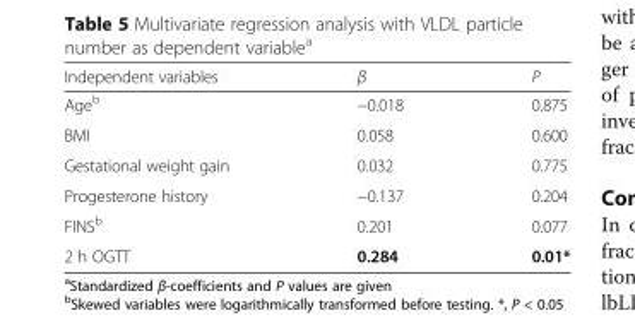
<table><thead><tr><td>Independent variables</td><td>β</td><td>P</td></tr></thead><tbody><tr><td>Age<sup>b</sup></td><td>−0.018</td><td>0.875</td></tr><tr><td>BMI</td><td>0.058</td><td>0.600</td></tr><tr><td>Gestational weight gain</td><td>0.032</td><td>0.775</td></tr><tr><td>Progesterone history</td><td>−0.137</td><td>0.204</td></tr><tr><td>FINS<sup>b</sup></td><td>0.201</td><td>0.077</td></tr><tr><td>2 h OGTT</td><td>0.284</td><td>0.01*</td></tr></tbody></table>